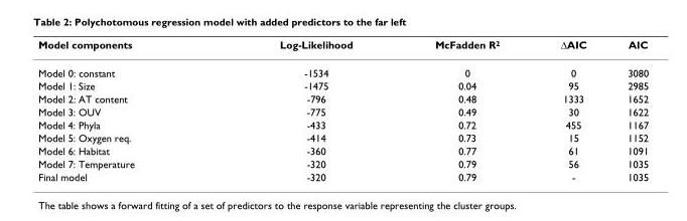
<table><thead><tr><td>Model components</td><td>Log-Likelihood</td><td>McFadden R<sup>2</sup></td><td>ΔAIC</td><td>AIC</td></tr></thead><tbody><tr><td>Model 0: constant</td><td>-1534</td><td>0</td><td>0</td><td>3080</td></tr><tr><td>Model 1: Size</td><td>-1475</td><td>0.04</td><td>95</td><td>2985</td></tr><tr><td>Model 2: AT content</td><td>-796</td><td>0.48</td><td>1333</td><td>1652</td></tr><tr><td>Model 3: OUV</td><td>-775</td><td>0.49</td><td>30</td><td>1622</td></tr><tr><td>Model 4: Phyla</td><td>-433</td><td>0.72</td><td>455</td><td>1167</td></tr><tr><td>Model 5: Oxygen req.</td><td>-414</td><td>0.73</td><td>15</td><td>1152</td></tr><tr><td>Model 6: Habitat</td><td>-360</td><td>0.77</td><td>61</td><td>1091</td></tr><tr><td>Model 7: Temperature</td><td>-320</td><td>0.79</td><td>56</td><td>1035</td></tr><tr><td>Final model</td><td>-320</td><td>0.79</td><td>-</td><td>1035</td></tr></tbody></table>